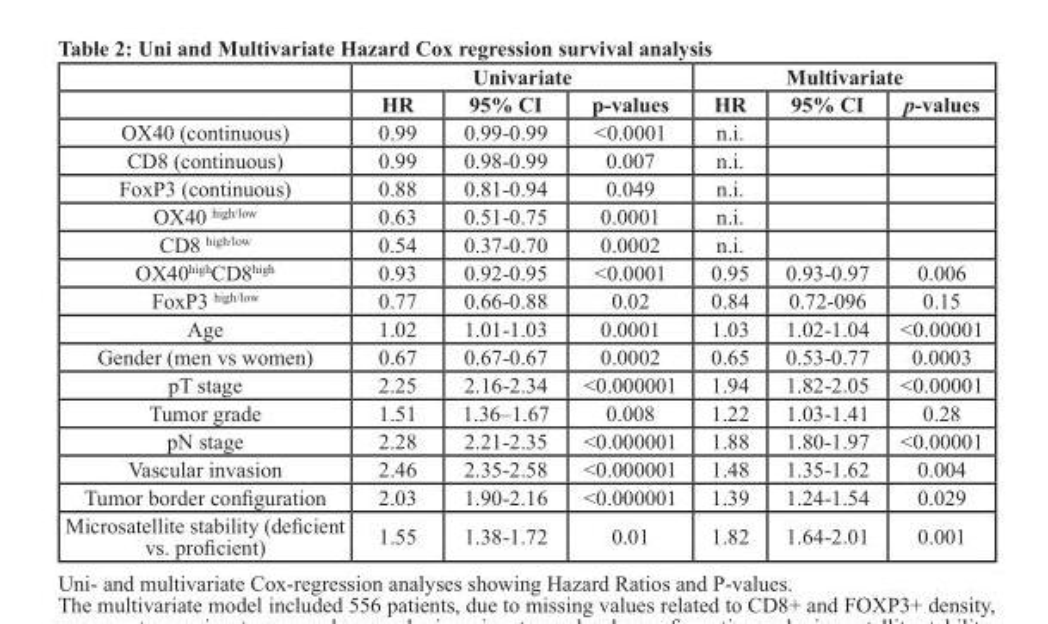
<table><thead><tr><td rowspan="2"></td><td colspan="3">Univariate</td><td colspan="3">Multivariate</td></tr><tr><td>HR</td><td>95% CI</td><td>p-values</td><td>HR</td><td>95% CI</td><td>p-values</td></tr></thead><tbody><tr><td>OX40 (continuous)</td><td>0.99</td><td>0.99-0.99</td><td>&lt;0.0001</td><td>n.i.</td><td></td><td></td></tr><tr><td>CD8 (continuous)</td><td>0.99</td><td>0.98-0.99</td><td>0.007</td><td>n.i.</td><td></td><td></td></tr><tr><td>FoxP3 (continuous)</td><td>0.88</td><td>0.81-0.94</td><td>0.049</td><td>n.i.</td><td></td><td></td></tr><tr><td>OX40 <sup>high/low</sup></td><td>0.63</td><td>0.51-0.75</td><td>0.0001</td><td>n.i.</td><td></td><td></td></tr><tr><td>CD8 <sup>high/low</sup></td><td>0.54</td><td>0.37-0.70</td><td>0.0002</td><td>n.i.</td><td></td><td></td></tr><tr><td>OX40<sup>high</sup>CD8<sup>high</sup></td><td>0.93</td><td>0.92-0.95</td><td>&lt;0.0001</td><td>0.95</td><td>0.93-0.97</td><td>0.006</td></tr><tr><td>FoxP3 <sup>high/low</sup></td><td>0.77</td><td>0.66-0.88</td><td>0.02</td><td>0.84</td><td>0.72-096</td><td>0.15</td></tr><tr><td>Age</td><td>1.02</td><td>1.01-1.03</td><td>0.0001</td><td>1.03</td><td>1.02-1.04</td><td>&lt;0.00001</td></tr><tr><td>Gender (men vs women)</td><td>0.67</td><td>0.67-0.67</td><td>0.0002</td><td>0.65</td><td>0.53-0.77</td><td>0.0003</td></tr><tr><td>pT stage</td><td>2.25</td><td>2.16-2.34</td><td>&lt;0.000001</td><td>1.94</td><td>1.82-2.05</td><td>&lt;0.00001</td></tr><tr><td>Tumor grade</td><td>1.51</td><td>1.36–1.67</td><td>0.008</td><td>1.22</td><td>1.03-1.41</td><td>0.28</td></tr><tr><td>pN stage</td><td>2.28</td><td>2.21-2.35</td><td>&lt;0.000001</td><td>1.88</td><td>1.80-1.97</td><td>&lt;0.00001</td></tr><tr><td>Vascular invasion</td><td>2.46</td><td>2.35-2.58</td><td>&lt;0.000001</td><td>1.48</td><td>1.35-1.62</td><td>0.004</td></tr><tr><td>Tumor border configuration</td><td>2.03</td><td>1.90-2.16</td><td>&lt;0.000001</td><td>1.39</td><td>1.24-1.54</td><td>0.029</td></tr><tr><td>Microsatellite stability (deficient vs. proficient)</td><td>1.55</td><td>1.38-1.72</td><td>0.01</td><td>1.82</td><td>1.64-2.01</td><td>0.001</td></tr></tbody></table>